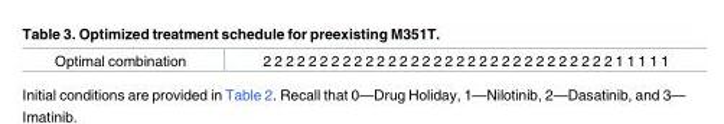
<table><tbody><tr><td>Optimal combination</td><td>2 2 2 2 2 2 2 2 2 2 2 2 2 2 2 2 2 2 2 2 2 2 2 2 2 2 2 2 2 2 2 1 1 1 1 1</td></tr></tbody></table>